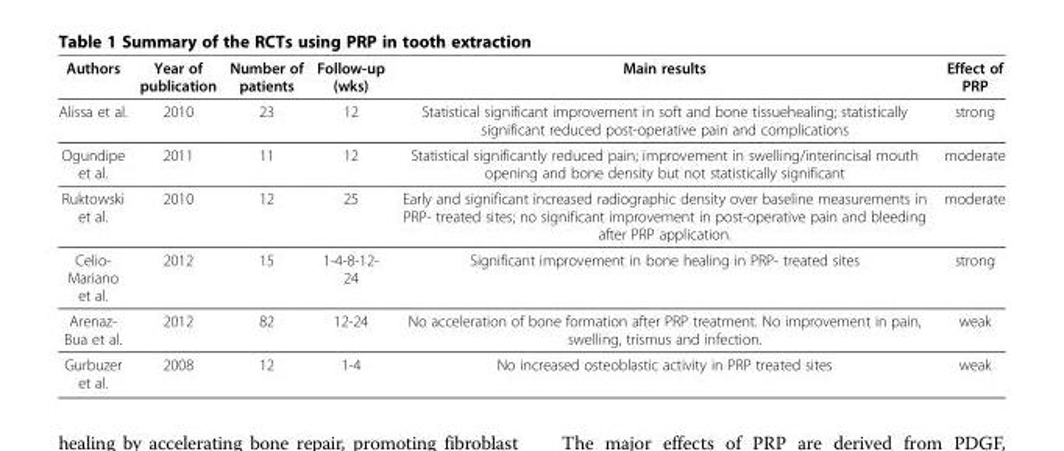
<table><thead><tr><td>Authors</td><td>Year of publication</td><td>Number of patients</td><td>Follow-up (wks)</td><td>Main results</td><td>Effect of PRP</td></tr></thead><tbody><tr><td>Alissa et al.</td><td>2010</td><td>23</td><td>12</td><td>Statistical significant improvement in soft and bone tissuehealing; statistically significant reduced post-operative pain and complications</td><td>strong</td></tr><tr><td>Ogundipe et al.</td><td>2011</td><td>11</td><td>12</td><td>Statistical significantly reduced pain; improvement in swelling/interincisal mouth opening and bone density but not statistically significant</td><td>moderate</td></tr><tr><td>Ruktowski et al.</td><td>2010</td><td>12</td><td>25</td><td>Early and significant increased radiographic density over baseline measurements in PRP- treated sites; no significant improvement in post-operative pain and bleeding after PRP application.</td><td>moderate</td></tr><tr><td>Celio- Mariano et al.</td><td>2012</td><td>15</td><td>1-4-8-12- 24</td><td>Significant improvement in bone healing in PRP- treated sites</td><td>strong</td></tr><tr><td>Arenaz- Bua et al.</td><td>2012</td><td>82</td><td>12-24</td><td>No acceleration of bone formation after PRP treatment. No improvement in pain, swelling, trismus and infection.</td><td>weak</td></tr><tr><td>Gurbuzer et al.</td><td>2008</td><td>12</td><td>1-4</td><td>No increased osteoblastic activity in PRP treated sites</td><td>weak</td></tr></tbody></table>